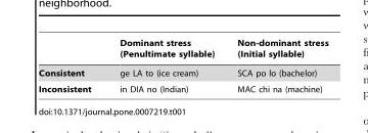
<table><thead><tr><td></td><td>Dominant stress (Penultimate syllable)</td><td>Non-dominant stress (Initial syllable)</td></tr></thead><tbody><tr><td>Consistent</td><td>ge LA to (ice cream)</td><td>SCA po lo (bachelor)</td></tr><tr><td>Inconsistent</td><td>in DIA no (Indian)</td><td>MAC chi na (machine)</td></tr></tbody></table>